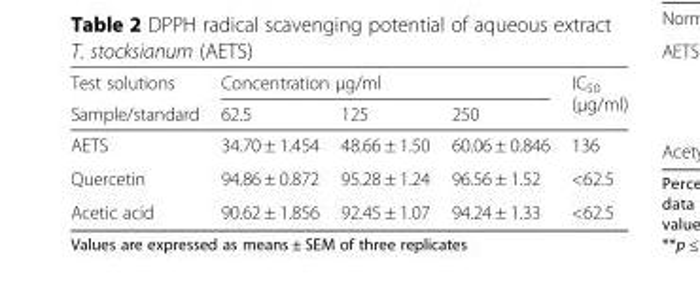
<table><thead><tr><td rowspan="2">Test solutions Sample/standard</td><td colspan="3">Concentration μg/ml</td><td rowspan="2">IC<sub>50</sub> (μg/ml)</td></tr><tr><td>62.5</td><td>125</td><td>250</td></tr></thead><tbody><tr><td>AETS</td><td>34.70 ± 1.454</td><td>48.66 ± 1.50</td><td>60.06 ± 0.846</td><td>136</td></tr><tr><td>Quercetin</td><td>94.86 ± 0.872</td><td>95.28 ± 1.24</td><td>96.56 ± 1.52</td><td>&lt;62.5</td></tr><tr><td>Acetic acid</td><td>90.62 ± 1.856</td><td>92.45 ± 1.07</td><td>94.24 ± 1.33</td><td>&lt;62.5</td></tr></tbody></table>